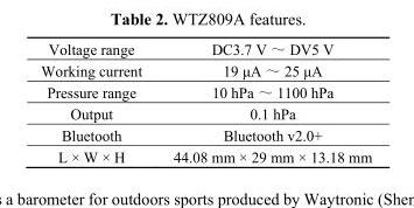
<table><tbody><tr><td>Voltage range</td><td>DC3.7 V ～ DV5 V</td></tr><tr><td>Working current</td><td>19 μA ～ 25 μA</td></tr><tr><td>Pressure range</td><td>10 hPa ～ 1100 hPa</td></tr><tr><td>Output</td><td>0.1 hPa</td></tr><tr><td>Bluetooth</td><td>Bluetooth v2.0+</td></tr><tr><td>L × W × H</td><td>44.08 mm × 29 mm × 13.18 mm</td></tr></tbody></table>